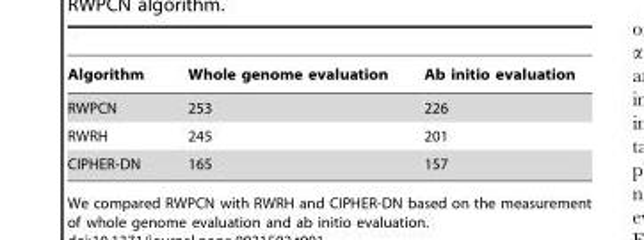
<table><thead><tr><td>Algorithm</td><td>Whole genome evaluation</td><td>Ab initio evaluation</td></tr></thead><tbody><tr><td>RWPCN</td><td>253</td><td>226</td></tr><tr><td>RWRH</td><td>245</td><td>201</td></tr><tr><td>CIPHER-DN</td><td>165</td><td>157</td></tr></tbody></table>